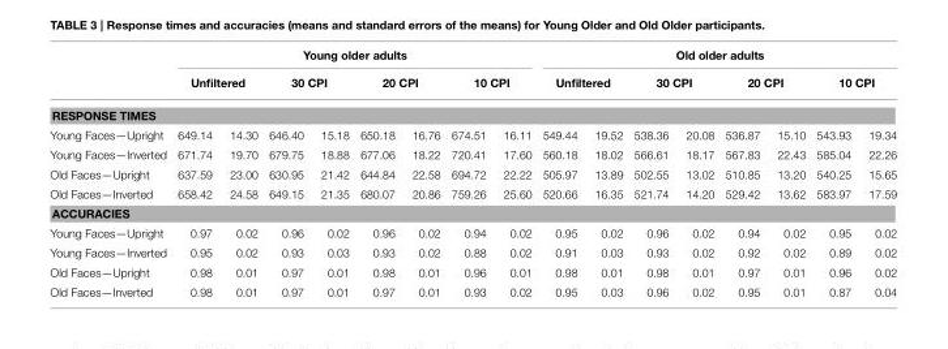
<table><thead><tr><td rowspan="2"></td><td colspan="8">Young older adults</td><td colspan="8">Old older adults</td></tr><tr><td colspan="2">Unfiltered</td><td colspan="2">30 CPI</td><td colspan="2">20 CPI</td><td colspan="2">10 CPI</td><td colspan="2">Unfiltered</td><td colspan="2">30 CPI</td><td colspan="2">20 CPI</td><td colspan="2">10 CPI</td></tr><tr><td colspan="17">RESPONSE TIMES</td></tr><tr><td>Young Faces—Upright</td><td>649.14</td><td>14.30</td><td>646.40</td><td>15.18</td><td>650.18</td><td>16.76</td><td>674.51</td><td>16.11</td><td>549.44</td><td>19.52</td><td>538.36</td><td>20.08</td><td>536.87</td><td>15.10</td><td>543.93</td><td>19.34</td></tr></thead><tbody><tr><td>Young Faces—Inverted</td><td>671.74</td><td>19.70</td><td>679.75</td><td>18.88</td><td>677.06</td><td>18.22</td><td>720.41</td><td>17.60</td><td>560.18</td><td>18.02</td><td>566.61</td><td>18.17</td><td>567.83</td><td>22.43</td><td>585.04</td><td>22.26</td></tr><tr><td>Old Faces—Upright</td><td>637.59</td><td>23.00</td><td>630.95</td><td>21.42</td><td>644.84</td><td>22.58</td><td>694.72</td><td>22.22</td><td>505.97</td><td>13.89</td><td>502.55</td><td>13.02</td><td>510.85</td><td>13.20</td><td>540.25</td><td>15.65</td></tr><tr><td>Old Faces—Inverted</td><td>658.42</td><td>24.58</td><td>649.15</td><td>21.35</td><td>680.07</td><td>20.86</td><td>759.26</td><td>25.60</td><td>520.66</td><td>16.35</td><td>521.74</td><td>14.20</td><td>529.42</td><td>13.62</td><td>583.97</td><td>17.59</td></tr><tr><td colspan="17">ACCURACIES</td></tr><tr><td>Young Faces—Upright</td><td>0.97</td><td>0.02</td><td>0.96</td><td>0.02</td><td>0.96</td><td>0.02</td><td>0.94</td><td>0.02</td><td>0.95</td><td>0.02</td><td>0.96</td><td>0.02</td><td>0.94</td><td>0.02</td><td>0.95</td><td>0.02</td></tr><tr><td>Young Faces—Inverted</td><td>0.95</td><td>0.02</td><td>0.93</td><td>0.03</td><td>0.93</td><td>0.02</td><td>0.88</td><td>0.02</td><td>0.91</td><td>0.03</td><td>0.93</td><td>0.02</td><td>0.92</td><td>0.02</td><td>0.89</td><td>0.02</td></tr><tr><td>Old Faces—Upright</td><td>0.98</td><td>0.01</td><td>0.97</td><td>0.01</td><td>0.98</td><td>0.01</td><td>0.96</td><td>0.01</td><td>0.98</td><td>0.01</td><td>0.98</td><td>0.01</td><td>0.97</td><td>0.01</td><td>0.96</td><td>0.02</td></tr><tr><td>Old Faces—Inverted</td><td>0.98</td><td>0.01</td><td>0.97</td><td>0.01</td><td>0.97</td><td>0.01</td><td>0.93</td><td>0.02</td><td>0.95</td><td>0.03</td><td>0.96</td><td>0.02</td><td>0.95</td><td>0.01</td><td>0.87</td><td>0.04</td></tr></tbody></table>